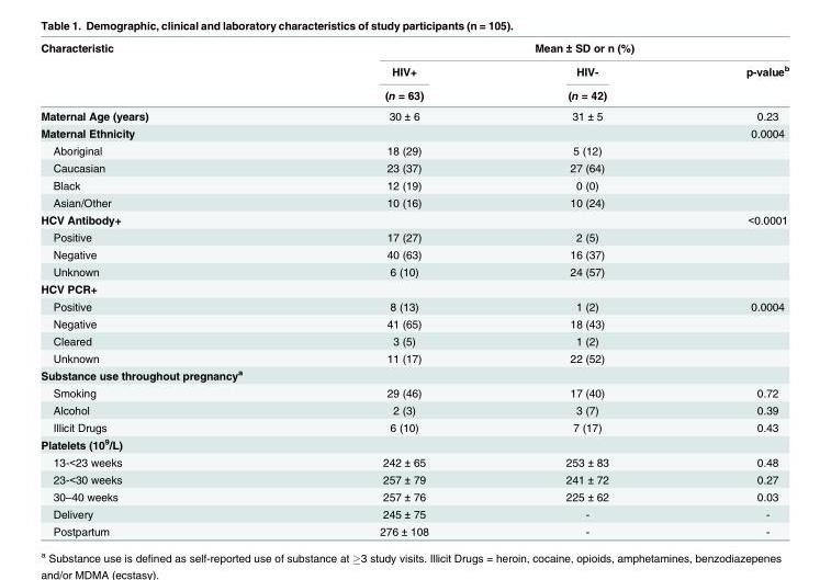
<table><thead><tr><td rowspan="3">Characteristic</td><td colspan="3">Mean ± SD or n (%)</td></tr><tr><td rowspan="2">HIV+ (n = 63)</td><td rowspan="2">HIV- (n = 42)</td><td rowspan="2">p-value<sup>b</sup></td></tr><tr></tr></thead><tbody><tr><td>Maternal Age (years)</td><td>30 ± 6</td><td>31 ± 5</td><td>0.23</td></tr><tr><td>Maternal Ethnicity</td><td></td><td></td><td>0.0004</td></tr><tr><td>Aboriginal</td><td>18 (29)</td><td>5 (12)</td><td></td></tr><tr><td>Caucasian</td><td>23 (37)</td><td>27 (64)</td><td></td></tr><tr><td>Black</td><td>12 (19)</td><td>0 (0)</td><td></td></tr><tr><td>Asian/Other</td><td>10 (16)</td><td>10 (24)</td><td></td></tr><tr><td>HCV Antibody+</td><td></td><td></td><td>&lt;0.0001</td></tr><tr><td>Positive</td><td>17 (27)</td><td>2 (5)</td><td></td></tr><tr><td>Negative</td><td>40 (63)</td><td>16 (37)</td><td></td></tr><tr><td>Unknown</td><td>6 (10)</td><td>24 (57)</td><td></td></tr><tr><td colspan="4">HCV PCR+</td></tr><tr><td>Positive</td><td>8 (13)</td><td>1 (2)</td><td>0.0004</td></tr><tr><td>Negative</td><td>41 (65)</td><td>18 (43)</td><td></td></tr><tr><td>Cleared</td><td>3 (5)</td><td>1 (2)</td><td></td></tr><tr><td>Unknown</td><td>11 (17)</td><td>22 (52)</td><td></td></tr><tr><td colspan="4">Substance use throughout pregnancy<sup>a</sup></td></tr><tr><td>Smoking</td><td>29 (46)</td><td>17 (40)</td><td>0.72</td></tr><tr><td>Alcohol</td><td>2 (3)</td><td>3 (7)</td><td>0.39</td></tr><tr><td>Illicit Drugs</td><td>6 (10)</td><td>7 (17)</td><td>0.43</td></tr><tr><td colspan="4">Platelets (10<sup>9</sup>/L)</td></tr><tr><td>13-&lt;23 weeks</td><td>242 ± 65</td><td>253 ± 83</td><td>0.48</td></tr><tr><td>23-&lt;30 weeks</td><td>257 ± 79</td><td>241 ± 72</td><td>0.27</td></tr><tr><td>30–40 weeks</td><td>257 ± 76</td><td>225 ± 62</td><td>0.03</td></tr><tr><td>Delivery</td><td>245 ± 75</td><td>-</td><td>-</td></tr><tr><td>Postpartum</td><td>276 ± 108</td><td>-</td><td>-</td></tr></tbody></table>